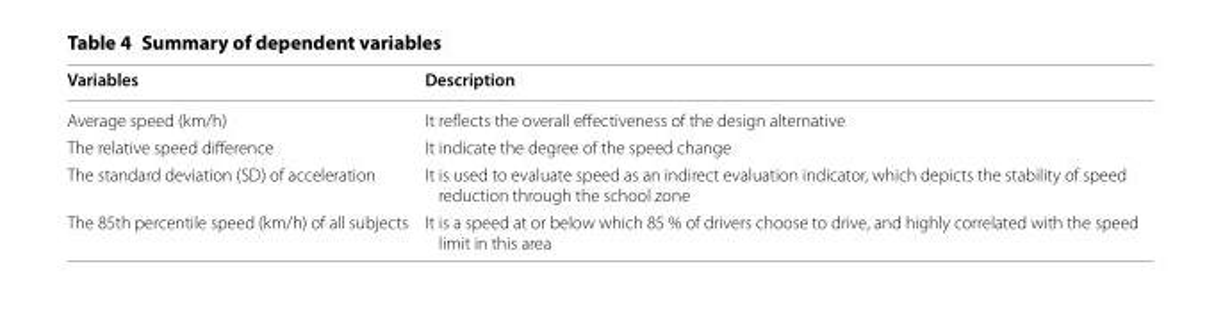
<table><thead><tr><td>Variables</td><td>Description</td></tr></thead><tbody><tr><td>Average speed (km/h)</td><td>It reflects the overall effectiveness of the design alternative</td></tr><tr><td>The relative speed difference</td><td>It indicate the degree of the speed change</td></tr><tr><td>The standard deviation (SD) of acceleration</td><td>It is used to evaluate speed as an indirect evaluation indicator, which depicts the stability of speed reduction through the school zone</td></tr><tr><td>The 85th percentile speed (km/h) of all subjects</td><td>It is a speed at or below which 85 % of drivers choose to drive, and highly correlated with the speed limit in this area</td></tr></tbody></table>